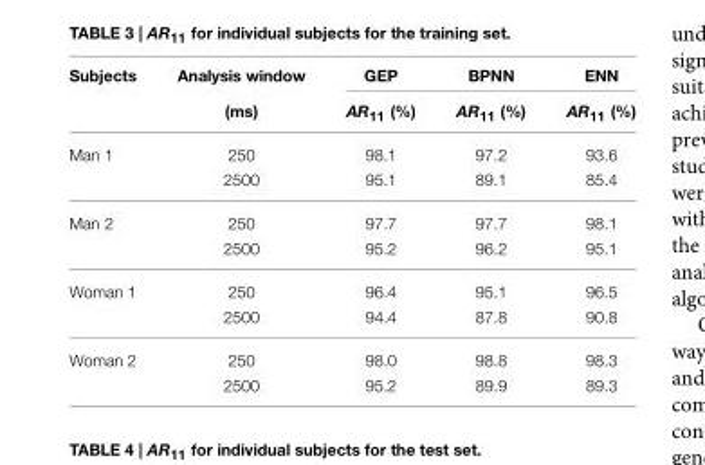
<table><thead><tr><td rowspan="2">Subjects</td><td rowspan="2">Analysis window (ms)</td><td rowspan="2">GEP AR<sub>11</sub> (%)</td><td rowspan="2">BPNN AR<sub>11</sub> (%)</td><td rowspan="2">ENN AR<sub>11</sub> (%)</td></tr><tr></tr></thead><tbody><tr><td rowspan="2">Man 1</td><td>250</td><td>98.1</td><td>97.2</td><td>93.6</td></tr><tr><td>2500</td><td>95.1</td><td>89.1</td><td>85.4</td></tr><tr><td rowspan="2">Man 2</td><td>250</td><td>97.7</td><td>97.7</td><td>98.1</td></tr><tr><td>2500</td><td>95.2</td><td>96.2</td><td>95.1</td></tr><tr><td rowspan="2">Woman 1</td><td>250</td><td>96.4</td><td>95.1</td><td>96.5</td></tr><tr><td>2500</td><td>94.4</td><td>87.8</td><td>90.8</td></tr><tr><td rowspan="2">Woman 2</td><td>250</td><td>98.0</td><td>98.8</td><td>98.3</td></tr><tr><td>2500</td><td>95.2</td><td>89.9</td><td>89.3</td></tr></tbody></table>